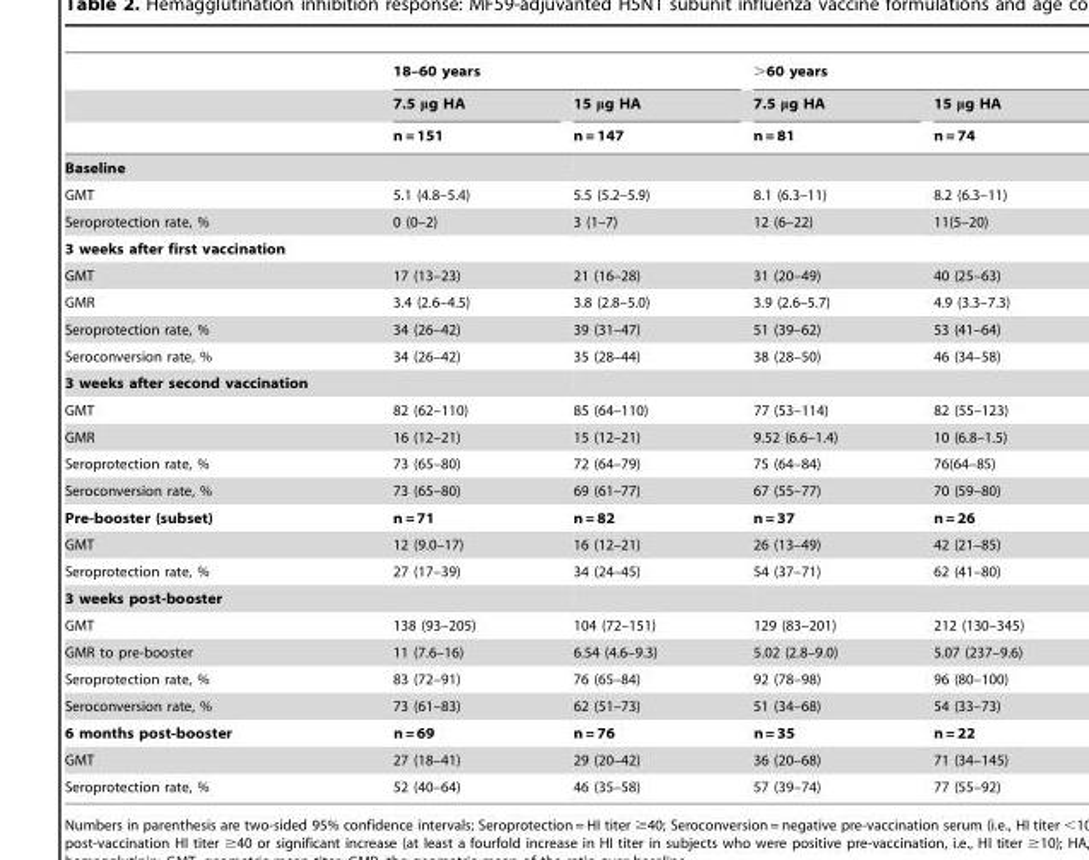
<table><thead><tr><td rowspan="3"></td><td colspan="2">18–60 years</td><td colspan="2">&gt;60 years</td></tr><tr><td rowspan="2">7.5 μg HA n = 151</td><td rowspan="2">15 μg HA n = 147</td><td rowspan="2">7.5 μg HA n = 81</td><td rowspan="2">15 μg HA n = 74</td></tr><tr></tr></thead><tbody><tr><td colspan="5">Baseline</td></tr><tr><td>GMT</td><td>5.1 (4.8–5.4)</td><td>5.5 (5.2–5.9)</td><td>8.1 (6.3–11)</td><td>8.2 (6.3–11)</td></tr><tr><td>Seroprotection rate, %</td><td>0 (0–2)</td><td>3 (1–7)</td><td>12 (6–22)</td><td>11(5–20)</td></tr><tr><td colspan="5">3 weeks after first vaccination</td></tr><tr><td>GMT</td><td>17 (13–23)</td><td>21 (16–28)</td><td>31 (20–49)</td><td>40 (25–63)</td></tr><tr><td>GMR</td><td>3.4 (2.6–4.5)</td><td>3.8 (2.8–5.0)</td><td>3.9 (2.6–5.7)</td><td>4.9 (3.3–7.3)</td></tr><tr><td>Seroprotection rate, %</td><td>34 (26–42)</td><td>39 (31–47)</td><td>51 (39–62)</td><td>53 (41–64)</td></tr><tr><td>Seroconversion rate, %</td><td>34 (26–42)</td><td>35 (28–44)</td><td>38 (28–50)</td><td>46 (34–58)</td></tr><tr><td colspan="5">3 weeks after second vaccination</td></tr><tr><td>GMT</td><td>82 (62–110)</td><td>85 (64–110)</td><td>77 (53–114)</td><td>82 (55–123)</td></tr><tr><td>GMR</td><td>16 (12–21)</td><td>15 (12–21)</td><td>9.52 (6.6–1.4)</td><td>10 (6.8–1.5)</td></tr><tr><td>Seroprotection rate, %</td><td>73 (65–80)</td><td>72 (64–79)</td><td>75 (64–84)</td><td>76(64–85)</td></tr><tr><td>Seroconversion rate, %</td><td>73 (65–80)</td><td>69 (61–77)</td><td>67 (55–77)</td><td>70 (59–80)</td></tr><tr><td>Pre-booster (subset)</td><td>n = 71</td><td>n = 82</td><td>n = 37</td><td>n = 26</td></tr><tr><td>GMT</td><td>12 (9.0–17)</td><td>16 (12–21)</td><td>26 (13–49)</td><td>42 (21–85)</td></tr><tr><td>Seroprotection rate, %</td><td>27 (17–39)</td><td>34 (24–45)</td><td>54 (37–71)</td><td>62 (41–80)</td></tr><tr><td colspan="5">3 weeks post-booster</td></tr><tr><td>GMT</td><td>138 (93–205)</td><td>104 (72–151)</td><td>129 (83–201)</td><td>212 (130–345)</td></tr><tr><td>GMR to pre-booster</td><td>11 (7.6–16)</td><td>6.54 (4.6–9.3)</td><td>5.02 (2.8–9.0)</td><td>5.07 (237–9.6)</td></tr><tr><td>Seroprotection rate, %</td><td>83 (72–91)</td><td>76 (65–84)</td><td>92 (78–98)</td><td>96 (80–100)</td></tr><tr><td>Seroconversion rate, %</td><td>73 (61–83)</td><td>62 (51–73)</td><td>51 (34–68)</td><td>54 (33–73)</td></tr><tr><td>6 months post-booster</td><td>n = 69</td><td>n = 76</td><td>n = 35</td><td>n = 22</td></tr><tr><td>GMT</td><td>27 (18–41)</td><td>29 (20–42)</td><td>36 (20–68)</td><td>71 (34–145)</td></tr><tr><td>Seroprotection rate, %</td><td>52 (40–64)</td><td>46 (35–58)</td><td>57 (39–74)</td><td>77 (55–92)</td></tr></tbody></table>